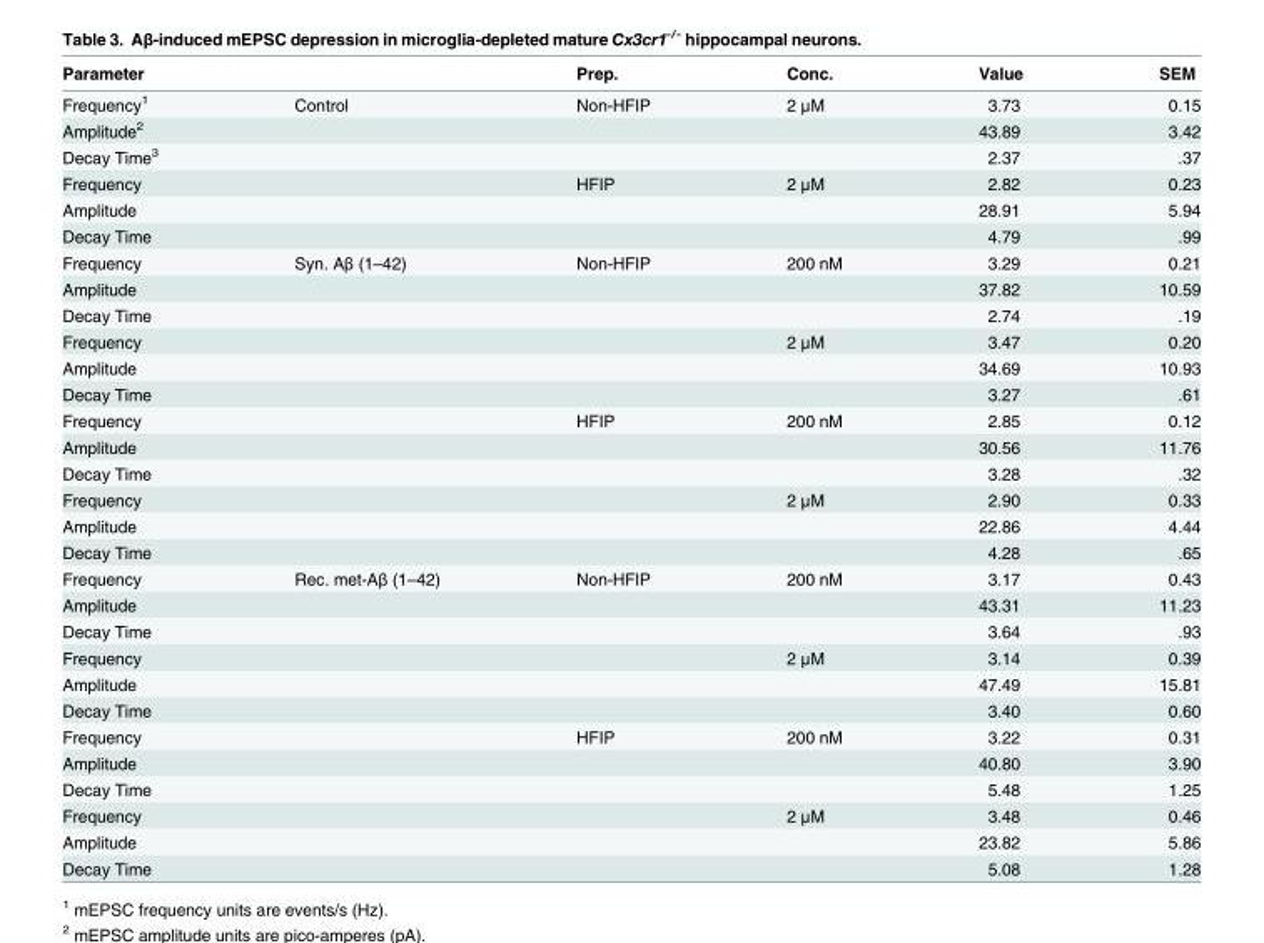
<table><thead><tr><td>Parameter</td><td></td><td>Prep.</td><td>Conc.</td><td>Value</td><td>SEM</td></tr></thead><tbody><tr><td>Frequency<sup>1</sup></td><td>Control</td><td>Non-HFIP</td><td>2 μM</td><td>3.73</td><td>0.15</td></tr><tr><td>Amplitude<sup>2</sup></td><td></td><td></td><td></td><td>43.89</td><td>3.42</td></tr><tr><td>Decay Time<sup>3</sup></td><td></td><td></td><td></td><td>2.37</td><td>.37</td></tr><tr><td>Frequency</td><td></td><td>HFIP</td><td>2 μM</td><td>2.82</td><td>0.23</td></tr><tr><td>Amplitude</td><td></td><td></td><td></td><td>28.91</td><td>5.94</td></tr><tr><td>Decay Time</td><td></td><td></td><td></td><td>4.79</td><td>.99</td></tr><tr><td>Frequency</td><td>Syn. Aβ (1–42)</td><td>Non-HFIP</td><td>200 nM</td><td>3.29</td><td>0.21</td></tr><tr><td>Amplitude</td><td></td><td></td><td></td><td>37.82</td><td>10.59</td></tr><tr><td>Decay Time</td><td></td><td></td><td></td><td>2.74</td><td>.19</td></tr><tr><td>Frequency</td><td></td><td></td><td>2 μM</td><td>3.47</td><td>0.20</td></tr><tr><td>Amplitude</td><td></td><td></td><td></td><td>34.69</td><td>10.93</td></tr><tr><td>Decay Time</td><td></td><td></td><td></td><td>3.27</td><td>.61</td></tr><tr><td>Frequency</td><td></td><td>HFIP</td><td>200 nM</td><td>2.85</td><td>0.12</td></tr><tr><td>Amplitude</td><td></td><td></td><td></td><td>30.56</td><td>11.76</td></tr><tr><td>Decay Time</td><td></td><td></td><td></td><td>3.28</td><td>.32</td></tr><tr><td>Frequency</td><td></td><td></td><td>2 μM</td><td>2.90</td><td>0.33</td></tr><tr><td>Amplitude</td><td></td><td></td><td></td><td>22.86</td><td>4.44</td></tr><tr><td>Decay Time</td><td></td><td></td><td></td><td>4.28</td><td>.65</td></tr><tr><td>Frequency</td><td>Rec. met-Aβ (1–42)</td><td>Non-HFIP</td><td>200 nM</td><td>3.17</td><td>0.43</td></tr><tr><td>Amplitude</td><td></td><td></td><td></td><td>43.31</td><td>11.23</td></tr><tr><td>Decay Time</td><td></td><td></td><td></td><td>3.64</td><td>.93</td></tr><tr><td>Frequency</td><td></td><td></td><td>2 μM</td><td>3.14</td><td>0.39</td></tr><tr><td>Amplitude</td><td></td><td></td><td></td><td>47.49</td><td>15.81</td></tr><tr><td>Decay Time</td><td></td><td></td><td></td><td>3.40</td><td>0.60</td></tr><tr><td>Frequency</td><td></td><td>HFIP</td><td>200 nM</td><td>3.22</td><td>0.31</td></tr><tr><td>Amplitude</td><td></td><td></td><td></td><td>40.80</td><td>3.90</td></tr><tr><td>Decay Time</td><td></td><td></td><td></td><td>5.48</td><td>1.25</td></tr><tr><td>Frequency</td><td></td><td></td><td>2 μM</td><td>3.48</td><td>0.46</td></tr><tr><td>Amplitude</td><td></td><td></td><td></td><td>23.82</td><td>5.86</td></tr><tr><td>Decay Time</td><td></td><td></td><td></td><td>5.08</td><td>1.28</td></tr></tbody></table>